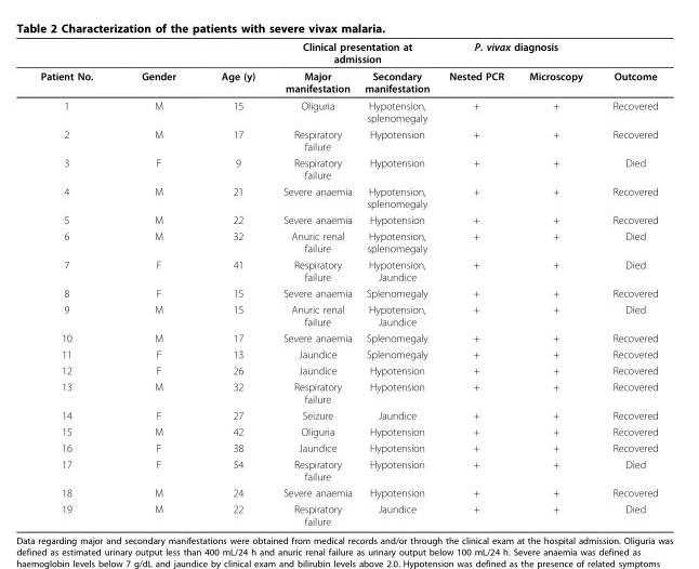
<table><thead><tr><td rowspan="2">Patient No.</td><td rowspan="2">Gender</td><td rowspan="2">Age (y)</td><td colspan="2">Clinical presentation at admission</td><td colspan="2">P. vivax diagnosis</td><td rowspan="2">Outcome</td></tr><tr><td>Major manifestation</td><td>Secondary manifestation</td><td>Nested PCR</td><td>Microscopy</td></tr></thead><tbody><tr><td>1</td><td>M</td><td>15</td><td>Oliguria</td><td>Hypotension, splenomegaly</td><td>+</td><td>+</td><td>Recovered</td></tr><tr><td>2</td><td>M</td><td>17</td><td>Respiratory failure</td><td>Hypotension</td><td>+</td><td>+</td><td>Recovered</td></tr><tr><td>3</td><td>F</td><td>9</td><td>Respiratory failure</td><td>Hypotension</td><td>+</td><td>+</td><td>Died</td></tr><tr><td>4</td><td>M</td><td>21</td><td>Severe anaemia</td><td>Hypotension, splenomegaly</td><td>+</td><td>+</td><td>Recovered</td></tr><tr><td>5</td><td>M</td><td>22</td><td>Severe anaemia</td><td>Hypotension</td><td>+</td><td>+</td><td>Recovered</td></tr><tr><td>6</td><td>M</td><td>32</td><td>Anuric renal failure</td><td>Hypotension, splenomegaly</td><td>+</td><td>+</td><td>Died</td></tr><tr><td>7</td><td>F</td><td>41</td><td>Respiratory failure</td><td>Hypotension, Jaundice</td><td>+</td><td>+</td><td>Died</td></tr><tr><td>8</td><td>F</td><td>15</td><td>Severe anaemia</td><td>Splenomegaly</td><td>+</td><td>+</td><td>Recovered</td></tr><tr><td>9</td><td>M</td><td>15</td><td>Anuric renal failure</td><td>Hypotension, Jaundice</td><td>+</td><td>+</td><td>Died</td></tr><tr><td>10</td><td>M</td><td>17</td><td>Severe anaemia</td><td>Splenomegaly</td><td>+</td><td>+</td><td>Recovered</td></tr><tr><td>11</td><td>F</td><td>13</td><td>Jaundice</td><td>Splenomegaly</td><td>+</td><td>+</td><td>Recovered</td></tr><tr><td>12</td><td>F</td><td>26</td><td>Jaundice</td><td>Hypotension</td><td>+</td><td>+</td><td>Recovered</td></tr><tr><td>13</td><td>M</td><td>32</td><td>Respiratory failure</td><td>Hypotension</td><td>+</td><td>+</td><td>Recovered</td></tr><tr><td>14</td><td>F</td><td>27</td><td>Seizure</td><td>Jaundice</td><td>+</td><td>+</td><td>Recovered</td></tr><tr><td>15</td><td>M</td><td>42</td><td>Oliguria</td><td>Hypotension</td><td>+</td><td>+</td><td>Recovered</td></tr><tr><td>16</td><td>F</td><td>38</td><td>Jaundice</td><td>Hypotension</td><td>+</td><td>+</td><td>Recovered</td></tr><tr><td>17</td><td>F</td><td>54</td><td>Respiratory failure</td><td>Hypotension</td><td>+</td><td>+</td><td>Died</td></tr><tr><td>18</td><td>M</td><td>24</td><td>Severe anaemia</td><td>Hypotension</td><td>+</td><td>+</td><td>Recovered</td></tr><tr><td>19</td><td>M</td><td>22</td><td>Respiratory failure</td><td>Jaundice</td><td>+</td><td>+</td><td>Died</td></tr></tbody></table>